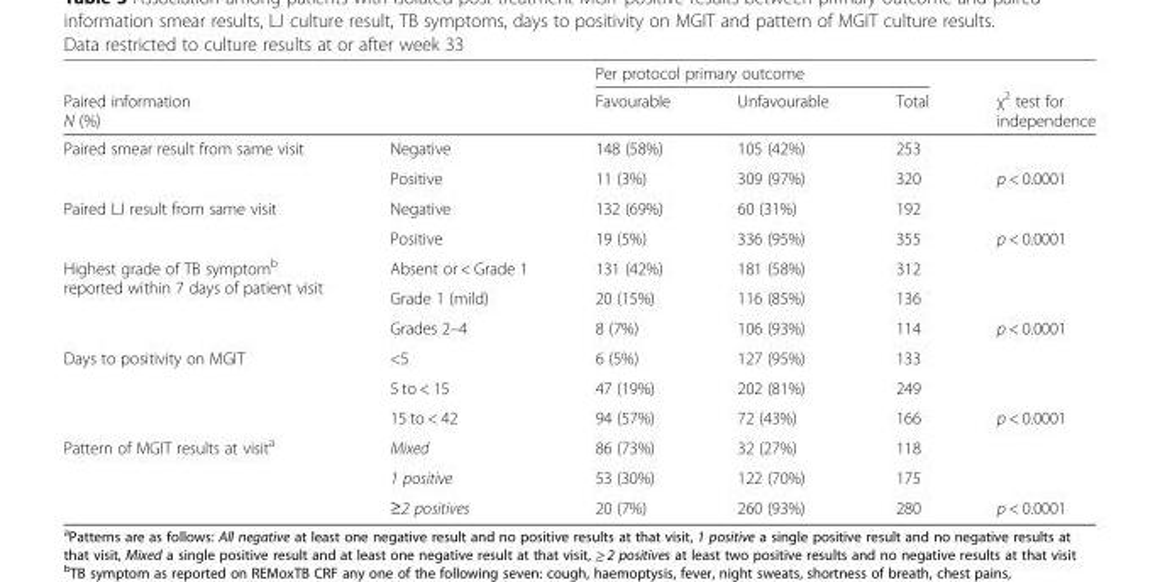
<table><thead><tr><td></td><td></td><td colspan="3">Per protocol primary outcome</td><td rowspan="2">χ<sup>2</sup> test for independence</td></tr><tr><td colspan="2">Paired information N (%)</td><td>Favourable</td><td>Unfavourable</td><td>Total</td></tr></thead><tbody><tr><td rowspan="2">Paired smear result from same visit</td><td>Negative</td><td>148 (58%)</td><td>105 (42%)</td><td>253</td><td></td></tr><tr><td>Positive</td><td>11 (3%)</td><td>309 (97%)</td><td>320</td><td>p &lt; 0.0001</td></tr><tr><td rowspan="2">Paired LJ result from same visit</td><td>Negative</td><td>132 (69%)</td><td>60 (31%)</td><td>192</td><td></td></tr><tr><td>Positive</td><td>19 (5%)</td><td>336 (95%)</td><td>355</td><td>p &lt; 0.0001</td></tr><tr><td rowspan="3">Highest grade of TB symptom<sup>b</sup> reported within 7 days of patient visit</td><td>Absent or &lt; Grade 1</td><td>131 (42%)</td><td>181 (58%)</td><td>312</td><td></td></tr><tr><td>Grade 1 (mild)</td><td>20 (15%)</td><td>116 (85%)</td><td>136</td><td></td></tr><tr><td>Grades 2–4</td><td>8 (7%)</td><td>106 (93%)</td><td>114</td><td>p &lt; 0.0001</td></tr><tr><td rowspan="3">Days to positivity on MGIT</td><td>&lt;5</td><td>6 (5%)</td><td>127 (95%)</td><td>133</td><td></td></tr><tr><td>5 to &lt; 15</td><td>47 (19%)</td><td>202 (81%)</td><td>249</td><td></td></tr><tr><td>15 to &lt; 42</td><td>94 (57%)</td><td>72 (43%)</td><td>166</td><td>p &lt; 0.0001</td></tr><tr><td rowspan="3">Pattern of MGIT results at visit<sup>a</sup></td><td>Mixed</td><td>86 (73%)</td><td>32 (27%)</td><td>118</td><td></td></tr><tr><td>1 positive</td><td>53 (30%)</td><td>122 (70%)</td><td>175</td><td></td></tr><tr><td>≥2 positives</td><td>20 (7%)</td><td>260 (93%)</td><td>280</td><td>p &lt; 0.0001</td></tr></tbody></table>